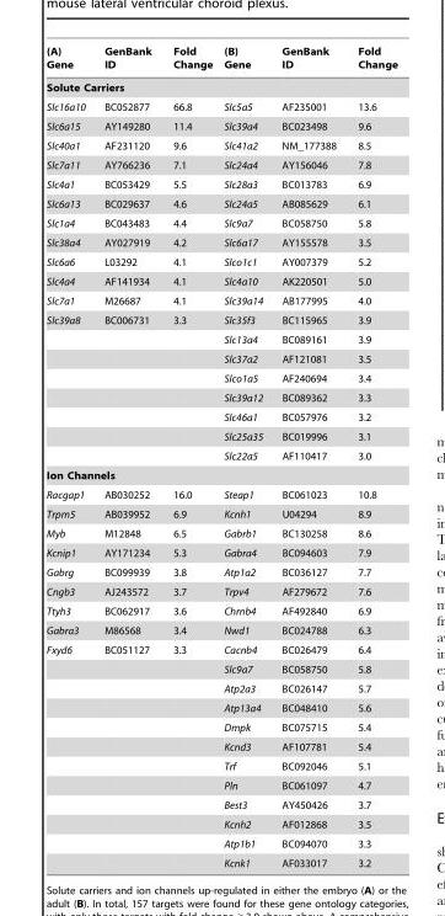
<table><thead><tr><td>(A) Gene</td><td>GenBank ID</td><td>Fold Change</td><td>(B) Gene</td><td>GenBank ID</td><td>Fold Change</td></tr></thead><tbody><tr><td colspan="6">Solute Carriers</td></tr><tr><td>Slc16a10</td><td>BC052877</td><td>66.8</td><td>Slc5a5</td><td>AF235001</td><td>13.6</td></tr><tr><td>Slc6a15</td><td>AY149280</td><td>11.4</td><td>Slc39a4</td><td>BC023498</td><td>9.6</td></tr><tr><td>Slc40a1</td><td>AF231120</td><td>9.6</td><td>Slc41a2</td><td>NM_177388</td><td>8.5</td></tr><tr><td>Slc7a11</td><td>AY766236</td><td>7.1</td><td>Slc24a4</td><td>AY156046</td><td>7.8</td></tr><tr><td>Slc4a1</td><td>BC053429</td><td>5.5</td><td>Slc28a3</td><td>BC013783</td><td>6.9</td></tr><tr><td>Slc6a13</td><td>BC029637</td><td>4.6</td><td>Slc24a5</td><td>AB085629</td><td>6.1</td></tr><tr><td>Slc1a4</td><td>BC043483</td><td>4.4</td><td>Slc9a7</td><td>BC058750</td><td>5.8</td></tr><tr><td>Slc38a4</td><td>AY027919</td><td>4.2</td><td>Slc6a17</td><td>AY155578</td><td>3.5</td></tr><tr><td>Slc6a6</td><td>L03292</td><td>4.1</td><td>Slco1c1</td><td>AY007379</td><td>5.2</td></tr><tr><td>Slc4a4</td><td>AF141934</td><td>4.1</td><td>Slc4a10</td><td>AK220501</td><td>5.0</td></tr><tr><td>Slc7a1</td><td>M26687</td><td>4.1</td><td>Slc39a14</td><td>AB177995</td><td>4.0</td></tr><tr><td rowspan="8">Slc39a8</td><td>BC006731</td><td>3.3</td><td>Slc35f3</td><td>BC115965</td><td>3.9</td></tr><tr><td></td><td></td><td>Slc13a4</td><td>BC089161</td><td>3.9</td></tr><tr><td></td><td></td><td>Slc37a2</td><td>AF121081</td><td>3.5</td></tr><tr><td></td><td></td><td>Slco1a5</td><td>AF240694</td><td>3.4</td></tr><tr><td></td><td></td><td>Slc39a12</td><td>BC089362</td><td>3.3</td></tr><tr><td></td><td></td><td>Slc46a1</td><td>BC057976</td><td>3.2</td></tr><tr><td></td><td></td><td>Slc25a35</td><td>BC019996</td><td>3.1</td></tr><tr><td></td><td></td><td>Slc22a5</td><td>AF110417</td><td>3.0</td></tr><tr><td colspan="6">Ion Channels</td></tr><tr><td>Racgap1</td><td>AB030252</td><td>16.0</td><td>Steap1</td><td>BC061023</td><td>10.8</td></tr><tr><td>Trpm5</td><td>AB039952</td><td>6.9</td><td>Kcnh1</td><td>U04294</td><td>8.9</td></tr><tr><td>Myb</td><td>M12848</td><td>6.5</td><td>Gabrb1</td><td>BC130258</td><td>8.6</td></tr><tr><td>Kcnip1</td><td>AY171234</td><td>5.3</td><td>Gabra4</td><td>BC094603</td><td>7.9</td></tr><tr><td>Gabrg</td><td>BC099939</td><td>3.8</td><td>Atp1a2</td><td>BC036127</td><td>7.7</td></tr><tr><td>Cngb3</td><td>AJ243572</td><td>3.7</td><td>Trpv4</td><td>AF279672</td><td>7.6</td></tr><tr><td>Ttyh3</td><td>BC062917</td><td>3.6</td><td>Chrnb4</td><td>AF492840</td><td>6.9</td></tr><tr><td>Gabra3</td><td>M86568</td><td>3.4</td><td>Nwd1</td><td>BC024788</td><td>6.3</td></tr><tr><td rowspan="12">Fxyd6</td><td>BC051127</td><td>3.3</td><td>Cacnb4</td><td>BC026479</td><td>6.4</td></tr><tr><td></td><td></td><td>Slc9a7</td><td>BC058750</td><td>5.8</td></tr><tr><td></td><td></td><td>Atp2a3</td><td>BC026147</td><td>5.7</td></tr><tr><td></td><td></td><td>Atp13a4</td><td>BC048410</td><td>5.6</td></tr><tr><td></td><td></td><td>Dmpk</td><td>BC075715</td><td>5.4</td></tr><tr><td></td><td></td><td>Kcnd3</td><td>AF107781</td><td>5.4</td></tr><tr><td></td><td></td><td>Trf</td><td>BC092046</td><td>5.1</td></tr><tr><td></td><td></td><td>Pln</td><td>BC061097</td><td>4.7</td></tr><tr><td></td><td></td><td>Best3</td><td>AY450426</td><td>3.7</td></tr><tr><td></td><td></td><td>Kcnh2</td><td>AF012868</td><td>3.5</td></tr><tr><td></td><td></td><td>Atp1b1</td><td>BC094070</td><td>3.3</td></tr><tr><td></td><td></td><td>Kcnk1</td><td>AF033017</td><td>3.2</td></tr></tbody></table>